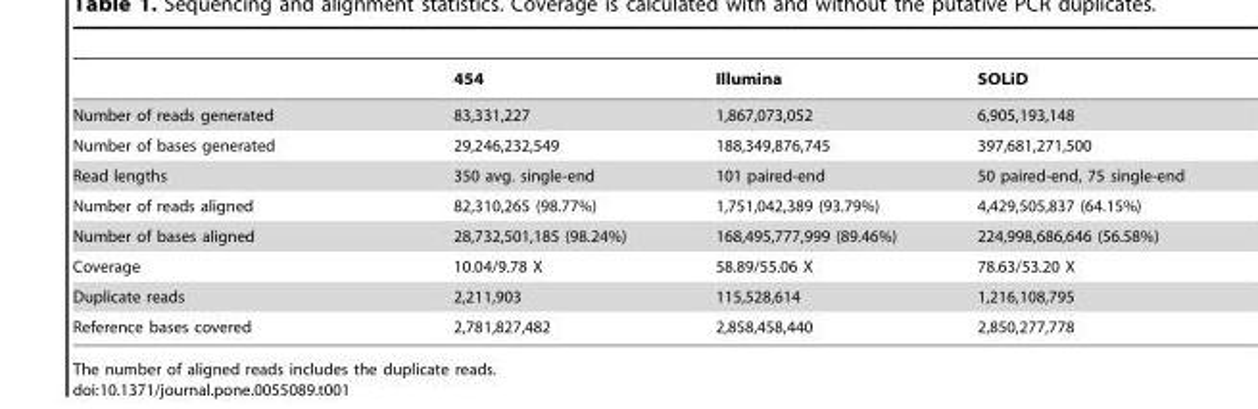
<table><thead><tr><td></td><td>454</td><td>Illumina</td><td>SOLiD</td></tr></thead><tbody><tr><td>Number of reads generated</td><td>83,331,227</td><td>1,867,073,052</td><td>6,905,193,148</td></tr><tr><td>Number of bases generated</td><td>29,246,232,549</td><td>188,349,876,745</td><td>397,681,271,500</td></tr><tr><td>Read lengths</td><td>350 avg. single-end</td><td>101 paired-end</td><td>50 paired-end, 75 single-end</td></tr><tr><td>Number of reads aligned</td><td>82,310,265 (98.77%)</td><td>1,751,042,389 (93.79%)</td><td>4,429,505,837 (64.15%)</td></tr><tr><td>Number of bases aligned</td><td>28,732,501,185 (98.24%)</td><td>168,495,777,999 (89.46%)</td><td>224,998,686,646 (56.58%)</td></tr><tr><td>Coverage</td><td>10.04/9.78 X</td><td>58.89/55.06 X</td><td>78.63/53.20 X</td></tr><tr><td>Duplicate reads</td><td>2,211,903</td><td>115,528,614</td><td>1,216,108,795</td></tr><tr><td>Reference bases covered</td><td>2,781,827,482</td><td>2,858,458,440</td><td>2,850,277,778</td></tr></tbody></table>